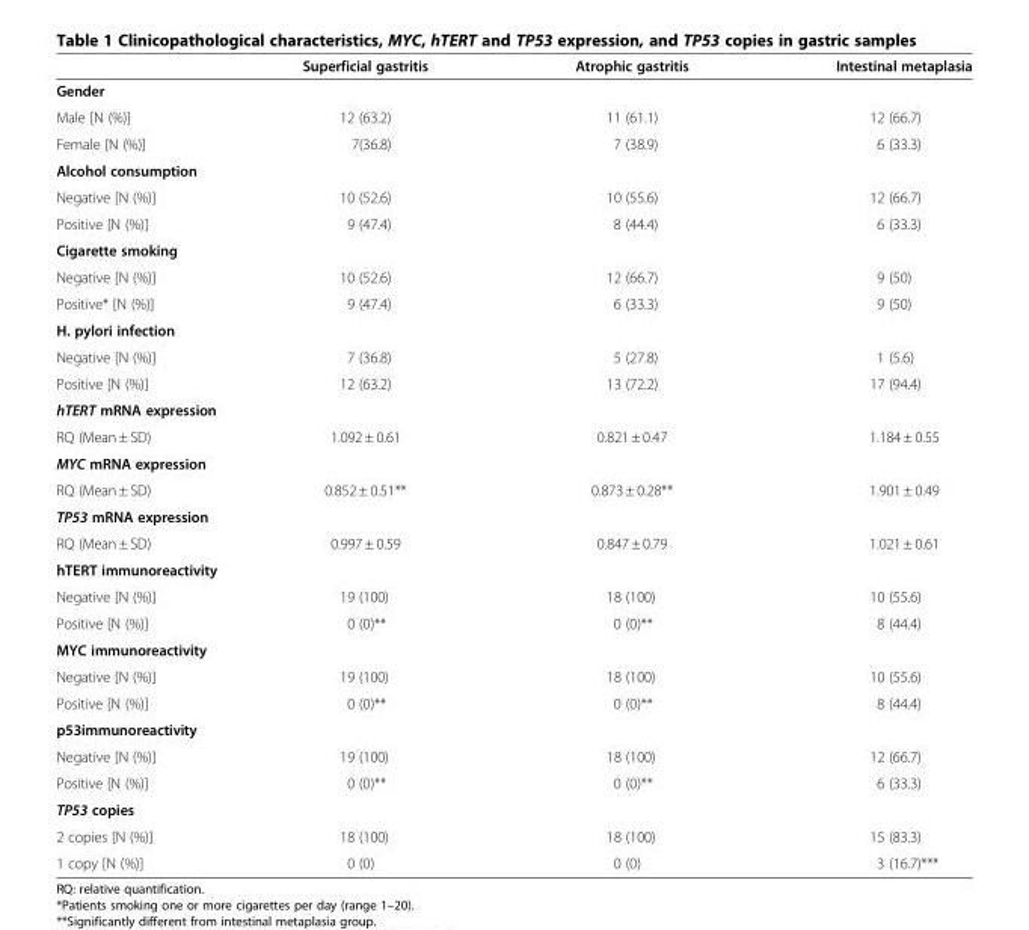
<table><thead><tr><td></td><td>Superficial gastritis</td><td>Atrophic gastritis</td><td>Intestinal metaplasia</td></tr></thead><tbody><tr><td colspan="4">Gender</td></tr><tr><td>Male [N (%)]</td><td>12 (63.2)</td><td>11 (61.1)</td><td>12 (66.7)</td></tr><tr><td>Female [N (%)]</td><td>7(36.8)</td><td>7 (38.9)</td><td>6 (33.3)</td></tr><tr><td colspan="4">Alcohol consumption</td></tr><tr><td>Negative [N (%)]</td><td>10 (52.6)</td><td>10 (55.6)</td><td>12 (66.7)</td></tr><tr><td>Positive [N (%)]</td><td>9 (47.4)</td><td>8 (44.4)</td><td>6 (33.3)</td></tr><tr><td colspan="4">Cigarette smoking</td></tr><tr><td>Negative [N (%)]</td><td>10 (52.6)</td><td>12 (66.7)</td><td>9 (50)</td></tr><tr><td>Positive* [N (%)]</td><td>9 (47.4)</td><td>6 (33.3)</td><td>9 (50)</td></tr><tr><td colspan="4">H. pylori infection</td></tr><tr><td>Negative [N (%)]</td><td>7 (36.8)</td><td>5 (27.8)</td><td>1 (5.6)</td></tr><tr><td>Positive [N (%)]</td><td>12 (63.2)</td><td>13 (72.2)</td><td>17 (94.4)</td></tr><tr><td colspan="4">hTERT mRNA expression</td></tr><tr><td>RQ (Mean ± SD)</td><td>1.092 ± 0.61</td><td>0.821 ± 0.47</td><td>1.184 ± 0.55</td></tr><tr><td colspan="4">MYC mRNA expression</td></tr><tr><td>RQ (Mean ± SD)</td><td>0.852 ± 0.51**</td><td>0.873 ± 0.28**</td><td>1.901 ± 0.49</td></tr><tr><td colspan="4">TP53 mRNA expression</td></tr><tr><td>RQ (Mean ± SD)</td><td>0.997 ± 0.59</td><td>0.847 ± 0.79</td><td>1.021 ± 0.61</td></tr><tr><td colspan="4">hTERT immunoreactivity</td></tr><tr><td>Negative [N (%)]</td><td>19 (100)</td><td>18 (100)</td><td>10 (55.6)</td></tr><tr><td>Positive [N (%)]</td><td>0 (0)**</td><td>0 (0)**</td><td>8 (44.4)</td></tr><tr><td colspan="4">MYC immunoreactivity</td></tr><tr><td>Negative [N (%)]</td><td>19 (100)</td><td>18 (100)</td><td>10 (55.6)</td></tr><tr><td>Positive [N (%)]</td><td>0 (0)**</td><td>0 (0)**</td><td>8 (44.4)</td></tr><tr><td colspan="4">p53immunoreactivity</td></tr><tr><td>Negative [N (%)]</td><td>19 (100)</td><td>18 (100)</td><td>12 (66.7)</td></tr><tr><td>Positive [N (%)]</td><td>0 (0)**</td><td>0 (0)**</td><td>6 (33.3)</td></tr><tr><td colspan="4">TP53 copies</td></tr><tr><td>2 copies [N (%)]</td><td>18 (100)</td><td>18 (100)</td><td>15 (83.3)</td></tr><tr><td>1 copy [N (%)]</td><td>0 (0)</td><td>0 (0)</td><td>3 (16.7)***</td></tr></tbody></table>